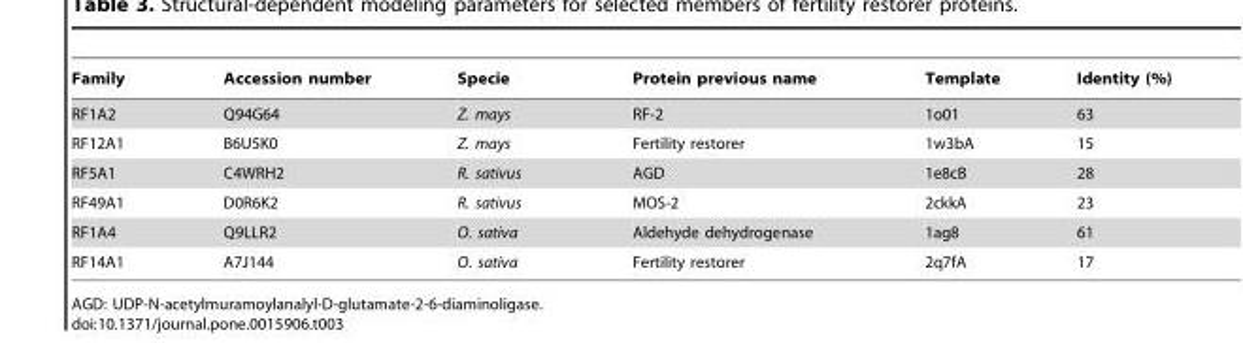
<table><thead><tr><td>Family</td><td>Accession number</td><td>Specie</td><td>Protein previous name</td><td>Template</td><td>Identity (%)</td></tr></thead><tbody><tr><td>RF1A2</td><td>Q94G64</td><td>Z. mays</td><td>RF-2</td><td>1o01</td><td>63</td></tr><tr><td>RF12A1</td><td>B6U5K0</td><td>Z. mays</td><td>Fertility restorer</td><td>1w3bA</td><td>15</td></tr><tr><td>RF5A1</td><td>C4WRH2</td><td>R. sativus</td><td>AGD</td><td>1e8cB</td><td>28</td></tr><tr><td>RF49A1</td><td>D0R6K2</td><td>R. sativus</td><td>MOS-2</td><td>2ckkA</td><td>23</td></tr><tr><td>RF1A4</td><td>Q9LLR2</td><td>O. sativa</td><td>Aldehyde dehydrogenase</td><td>1ag8</td><td>61</td></tr><tr><td>RF14A1</td><td>A7J144</td><td>O. sativa</td><td>Fertility restorer</td><td>2q7fA</td><td>17</td></tr></tbody></table>